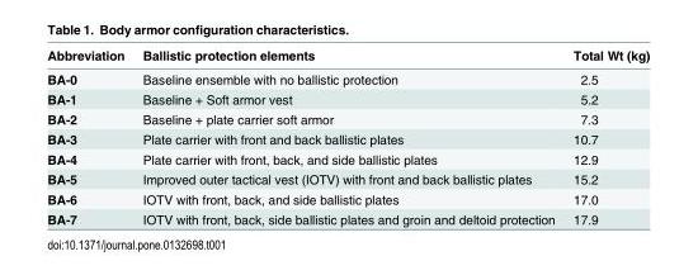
<table><thead><tr><td>Abbreviation</td><td>Ballistic protection elements</td><td>Total Wt (kg)</td></tr></thead><tbody><tr><td>BA-0</td><td>Baseline ensemble with no ballistic protection</td><td>2.5</td></tr><tr><td>BA-1</td><td>Baseline + Soft armor vest</td><td>5.2</td></tr><tr><td>BA-2</td><td>Baseline + plate carrier soft armor</td><td>7.3</td></tr><tr><td>BA-3</td><td>Plate carrier with front and back ballistic plates</td><td>10.7</td></tr><tr><td>BA-4</td><td>Plate carrier with front, back, and side ballistic plates</td><td>12.9</td></tr><tr><td>BA-5</td><td>Improved outer tactical vest (IOTV) with front and back ballistic plates</td><td>15.2</td></tr><tr><td>BA-6</td><td>IOTV with front, back, and side ballistic plates</td><td>17.0</td></tr><tr><td>BA-7</td><td>IOTV with front, back, side ballistic plates and groin and deltoid protection</td><td>17.9</td></tr></tbody></table>